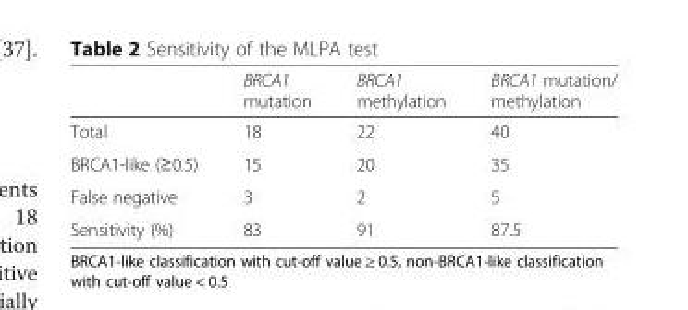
<table><thead><tr><td></td><td>BRCA1 mutation</td><td>BRCA1 methylation</td><td>BRCA1 mutation/ methylation</td></tr></thead><tbody><tr><td>Total</td><td>18</td><td>22</td><td>40</td></tr><tr><td>BRCA1-like (≥0.5)</td><td>15</td><td>20</td><td>35</td></tr><tr><td>False negative</td><td>3</td><td>2</td><td>5</td></tr><tr><td>Sensitivity (%)</td><td>83</td><td>91</td><td>87.5</td></tr></tbody></table>